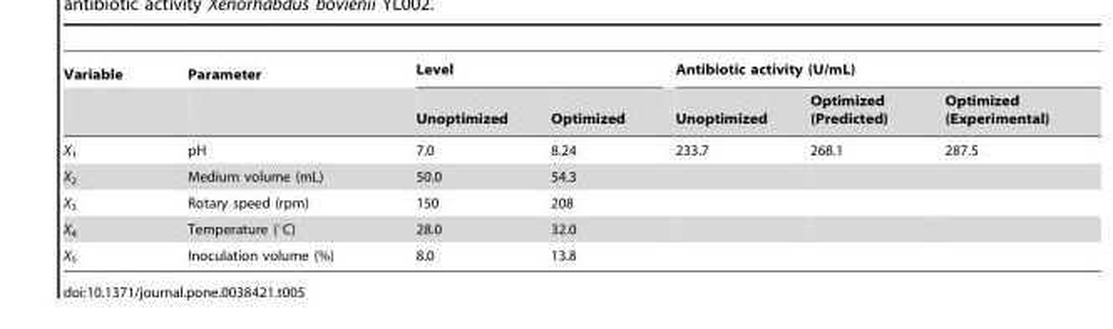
<table><thead><tr><td rowspan="2">Variable</td><td rowspan="2">Parameter</td><td colspan="2">Level</td><td colspan="3">Antibiotic activity (U/mL)</td></tr><tr><td>Unoptimized</td><td>Optimized</td><td>Unoptimized</td><td>Optimized (Predicted)</td><td>Optimized (Experimental)</td></tr></thead><tbody><tr><td>X<sub>1</sub></td><td>pH</td><td>7.0</td><td>8.24</td><td>233.7</td><td>268.1</td><td>287.5</td></tr><tr><td>X<sub>2</sub></td><td>Medium volume (mL)</td><td>50.0</td><td>54.3</td><td></td><td></td><td></td></tr><tr><td>X<sub>3</sub></td><td>Rotary speed (rpm)</td><td>150</td><td>208</td><td></td><td></td><td></td></tr><tr><td>X<sub>4</sub></td><td>Temperature (°C)</td><td>28.0</td><td>32.0</td><td></td><td></td><td></td></tr><tr><td>X<sub>5</sub></td><td>Inoculation volume (%)</td><td>8.0</td><td>13.8</td><td></td><td></td><td></td></tr></tbody></table>